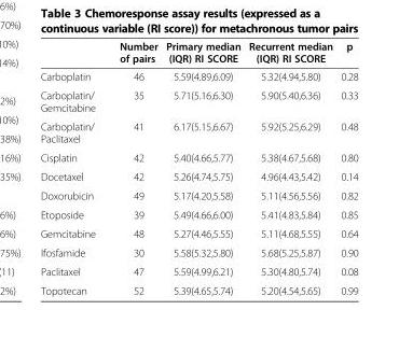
<table><thead><tr><td></td><td>Number of pairs</td><td>Primary median (IQR) RI SCORE</td><td>Recurrent median (IQR) RI SCORE</td><td>p</td></tr></thead><tbody><tr><td>Carboplatin</td><td>46</td><td>5.59(4.89,6.09)</td><td>5.32(4.94,5.80)</td><td>0.28</td></tr><tr><td>Carboplatin/ Gemcitabine</td><td>35</td><td>5.71(5.16,6.30)</td><td>5.90(5.40,6.36)</td><td>0.33</td></tr><tr><td>Carboplatin/ Paclitaxel</td><td>41</td><td>6.17(5.15,6.67)</td><td>5.92(5.25,6.29)</td><td>0.48</td></tr><tr><td>Cisplatin</td><td>42</td><td>5.40(4.66,5.77)</td><td>5.38(4.67,5.68)</td><td>0.80</td></tr><tr><td>Docetaxel</td><td>42</td><td>5.26(4.74,5.75)</td><td>4.96(4.43,5.42)</td><td>0.14</td></tr><tr><td>Doxorubicin</td><td>49</td><td>5.17(4.20,5.58)</td><td>5.11(4.56,5.56)</td><td>0.82</td></tr><tr><td>Etoposide</td><td>39</td><td>5.49(4.66,6.00)</td><td>5.41(4.83,5.84)</td><td>0.85</td></tr><tr><td>Gemcitabine</td><td>48</td><td>5.27(4.46,5.55)</td><td>5.11(4.68,5.55)</td><td>0.64</td></tr><tr><td>Ifosfamide</td><td>30</td><td>5.58(5.32,5.80)</td><td>5.68(5.25,5.87)</td><td>0.90</td></tr><tr><td>Paclitaxel</td><td>47</td><td>5.59(4.99,6.21)</td><td>5.30(4.80,5.74)</td><td>0.08</td></tr><tr><td>Topotecan</td><td>52</td><td>5.39(4.65,5.74)</td><td>5.20(4.54,5.65)</td><td>0.99</td></tr></tbody></table>